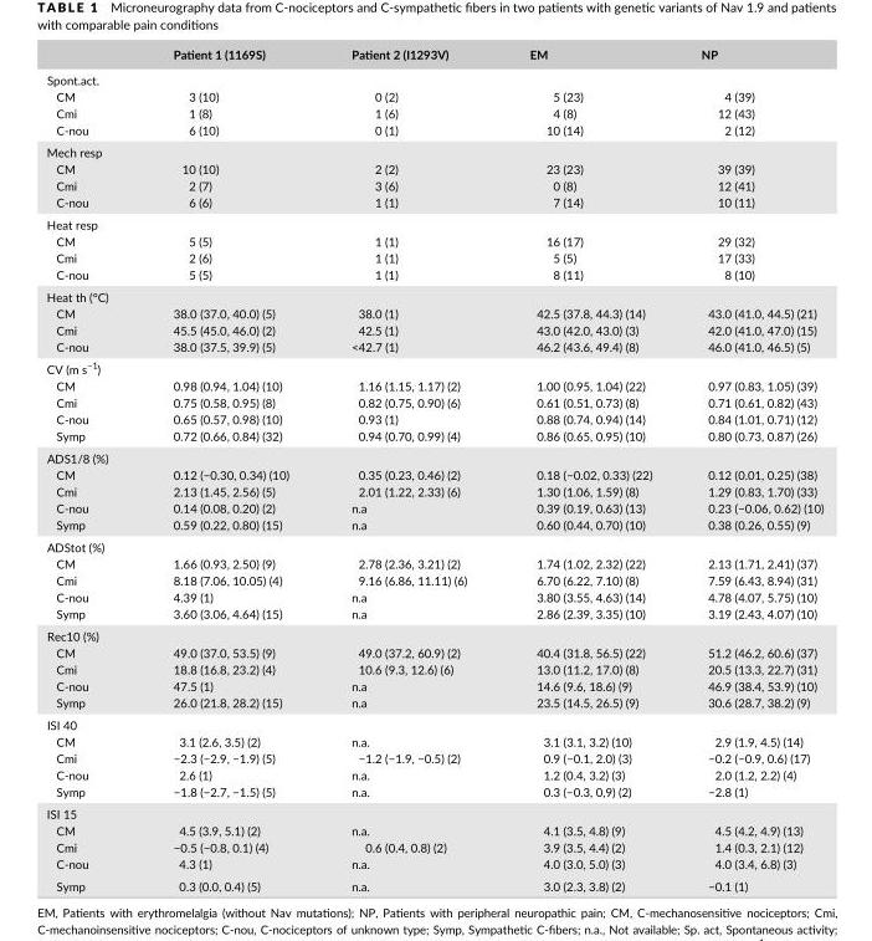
<table><thead><tr><td></td><td>Patient 1 (1169S)</td><td>Patient 2 (I1293V)</td><td>EM</td><td>NP</td></tr></thead><tbody><tr><td colspan="5">Spont.act.</td></tr><tr><td>CM</td><td>3 (10)</td><td>0 (2)</td><td>5 (23)</td><td>4 (39)</td></tr><tr><td>Cmi</td><td>1 (8)</td><td>1 (6)</td><td>4 (8)</td><td>12 (43)</td></tr><tr><td>C- nou</td><td>6 (10)</td><td>0 (1)</td><td>10 (14)</td><td>2 (12)</td></tr><tr><td colspan="5">Mech resp</td></tr><tr><td>CM</td><td>10 (10)</td><td>2 (2)</td><td>23 (23)</td><td>39 (39)</td></tr><tr><td>Cmi</td><td>2 (7)</td><td>3 (6)</td><td>0 (8)</td><td>12 (41)</td></tr><tr><td>C- nou</td><td>6 (6)</td><td>1 (1)</td><td>7 (14)</td><td>10 (11)</td></tr><tr><td colspan="5">Heat resp</td></tr><tr><td>CM</td><td>5 (5)</td><td>1 (1)</td><td>16 (17)</td><td>29 (32)</td></tr><tr><td>Cmi</td><td>2 (6)</td><td>1 (1)</td><td>5 (5)</td><td>17 (33)</td></tr><tr><td>C- nou</td><td>5 (5)</td><td>1 (1)</td><td>8 (11)</td><td>8 (10)</td></tr><tr><td colspan="5">Heat th (°C)</td></tr><tr><td>CM</td><td>38.0 (37.0, 40.0) (5)</td><td>38.0 (1)</td><td>42.5 (37.8, 44.3) (14)</td><td>43.0 (41.0, 44.5) (21)</td></tr><tr><td>Cmi</td><td>45.5 (45.0, 46.0) (2)</td><td>42.5 (1)</td><td>43.0 (42.0, 43.0) (3)</td><td>42.0 (41.0, 47.0) (15)</td></tr><tr><td>C- nou</td><td>38.0 (37.5, 39.9) (5)</td><td>&lt;42.7 (1)</td><td>46.2 (43.6, 49.4) (8)</td><td>46.0 (41.0, 46.5) (5)</td></tr><tr><td colspan="5">CV (m s<sup>−1</sup>)</td></tr><tr><td>CM</td><td>0.98 (0.94, 1.04) (10)</td><td>1.16 (1.15, 1.17) (2)</td><td>1.00 (0.95, 1.04) (22)</td><td>0.97 (0.83, 1.05) (39)</td></tr><tr><td>Cmi</td><td>0.75 (0.58, 0.95) (8)</td><td>0.82 (0.75, 0.90) (6)</td><td>0.61 (0.51, 0.73) (8)</td><td>0.71 (0.61, 0.82) (43)</td></tr><tr><td>C- nou</td><td>0.65 (0.57, 0.98) (10)</td><td>0.93 (1)</td><td>0.88 (0.74, 0.94) (14)</td><td>0.84 (1.01, 0.71) (12)</td></tr><tr><td>Symp</td><td>0.72 (0.66, 0.84) (32)</td><td>0.94 (0.70, 0.99) (4)</td><td>0.86 (0.65, 0.95) (10)</td><td>0.80 (0.73, 0.87) (26)</td></tr><tr><td colspan="5">ADS1/8 (%)</td></tr><tr><td>CM</td><td>0.12 (−0.30, 0.34) (10)</td><td>0.35 (0.23, 0.46) (2)</td><td>0.18 (−0.02, 0.33) (22)</td><td>0.12 (0.01, 0.25) (38)</td></tr><tr><td>Cmi</td><td>2.13 (1.45, 2.56) (5)</td><td>2.01 (1.22, 2.33) (6)</td><td>1.30 (1.06, 1.59) (8)</td><td>1.29 (0.83, 1.70) (33)</td></tr><tr><td>C- nou</td><td>0.14 (0.08, 0.20) (2)</td><td>n.a</td><td>0.39 (0.19, 0.63) (13)</td><td>0.23 (−0.06, 0.62) (10)</td></tr><tr><td>Symp</td><td>0.59 (0.22, 0.80) (15)</td><td>n.a</td><td>0.60 (0.44, 0.70) (10)</td><td>0.38 (0.26, 0.55) (9)</td></tr><tr><td colspan="5">ADStot (%)</td></tr><tr><td>CM</td><td>1.66 (0.93, 2.50) (9)</td><td>2.78 (2.36, 3.21) (2)</td><td>1.74 (1.02, 2.32) (22)</td><td>2.13 (1.71, 2.41) (37)</td></tr><tr><td>Cmi</td><td>8.18 (7.06, 10.05) (4)</td><td>9.16 (6.86, 11.11) (6)</td><td>6.70 (6.22, 7.10) (8)</td><td>7.59 (6.43, 8.94) (31)</td></tr><tr><td>C- nou</td><td>4.39 (1)</td><td>n.a</td><td>3.80 (3.55, 4.63) (14)</td><td>4.78 (4.07, 5.75) (10)</td></tr><tr><td>Symp</td><td>3.60 (3.06, 4.64) (15)</td><td>n.a</td><td>2.86 (2.39, 3.35) (10)</td><td>3.19 (2.43, 4.07) (10)</td></tr><tr><td colspan="5">Rec10 (%)</td></tr><tr><td>CM</td><td>49.0 (37.0, 53.5) (9)</td><td>49.0 (37.2, 60.9) (2)</td><td>40.4 (31.8, 56.5) (22)</td><td>51.2 (46.2, 60.6) (37)</td></tr><tr><td>Cmi</td><td>18.8 (16.8, 23.2) (4)</td><td>10.6 (9.3, 12.6) (6)</td><td>13.0 (11.2, 17.0) (8)</td><td>20.5 (13.3, 22.7) (31)</td></tr><tr><td>C- nou</td><td>47.5 (1)</td><td>n.a</td><td>14.6 (9.6, 18.6) (9)</td><td>46.9 (38.4, 53.9) (10)</td></tr><tr><td>Symp</td><td>26.0 (21.8, 28.2) (15)</td><td>n.a</td><td>23.5 (14.5, 26.5) (9)</td><td>30.6 (28.7, 38.2) (9)</td></tr><tr><td colspan="5">ISI 40</td></tr><tr><td>CM</td><td>3.1 (2.6, 3.5) (2)</td><td>n.a.</td><td>3.1 (3.1, 3.2) (10)</td><td>2.9 (1.9, 4.5) (14)</td></tr><tr><td>Cmi</td><td>−2.3 (−2.9, −1.9) (5)</td><td>−1.2 (−1.9, −0.5) (2)</td><td>0.9 (−0.1, 2.0) (3)</td><td>−0.2 (−0.9, 0.6) (17)</td></tr><tr><td>C- nou</td><td>2.6 (1)</td><td>n.a.</td><td>1.2 (0.4, 3.2) (3)</td><td>2.0 (1.2, 2.2) (4)</td></tr><tr><td>Symp</td><td>−1.8 (−2.7, −1.5) (5)</td><td>n.a.</td><td>0.3 (−0.3, 0,9) (2)</td><td>−2.8 (1)</td></tr><tr><td colspan="5">ISI 15</td></tr><tr><td>CM</td><td>4.5 (3.9, 5.1) (2)</td><td>n.a.</td><td>4.1 (3.5, 4.8) (9)</td><td>4.5 (4.2, 4.9) (13)</td></tr><tr><td>Cmi</td><td>−0.5 (−0.8, 0.1) (4)</td><td>0.6 (0.4, 0.8) (2)</td><td>3.9 (3.5, 4.4) (2)</td><td>1.4 (0.3, 2.1) (12)</td></tr><tr><td>C- nou</td><td>4.3 (1)</td><td>n.a.</td><td>4.0 (3.0, 5.0) (3)</td><td>4.0 (3.4, 6.8) (3)</td></tr><tr><td>Symp</td><td>0.3 (0.0, 0.4) (5)</td><td>n.a.</td><td>3.0 (2.3, 3.8) (2)</td><td>−0.1 (1)</td></tr></tbody></table>